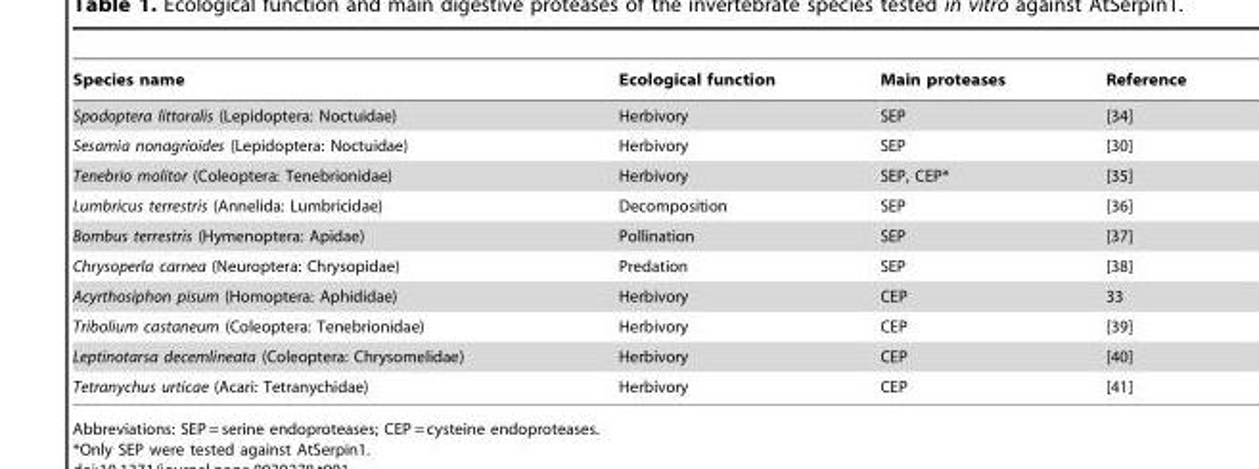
<table><thead><tr><td>Species name</td><td>Ecological function</td><td>Main proteases</td><td>Reference</td></tr></thead><tbody><tr><td>Spodoptera littoralis (Lepidoptera: Noctuidae)</td><td>Herbivory</td><td>SEP</td><td>[34]</td></tr><tr><td>Sesamia nonagrioides (Lepidoptera: Noctuidae)</td><td>Herbivory</td><td>SEP</td><td>[30]</td></tr><tr><td>Tenebrio molitor (Coleoptera: Tenebrionidae)</td><td>Herbivory</td><td>SEP, CEP*</td><td>[35]</td></tr><tr><td>Lumbricus terrestris (Annelida: Lumbricidae)</td><td>Decomposition</td><td>SEP</td><td>[36]</td></tr><tr><td>Bombus terrestris (Hymenoptera: Apidae)</td><td>Pollination</td><td>SEP</td><td>[37]</td></tr><tr><td>Chrysoperla carnea (Neuroptera: Chrysopidae)</td><td>Predation</td><td>SEP</td><td>[38]</td></tr><tr><td>Acyrthosiphon pisum (Homoptera: Aphididae)</td><td>Herbivory</td><td>CEP</td><td>33</td></tr><tr><td>Tribolium castaneum (Coleoptera: Tenebrionidae)</td><td>Herbivory</td><td>CEP</td><td>[39]</td></tr><tr><td>Leptinotarsa decemlineata (Coleoptera: Chrysomelidae)</td><td>Herbivory</td><td>CEP</td><td>[40]</td></tr><tr><td>Tetranychus urticae (Acari: Tetranychidae)</td><td>Herbivory</td><td>CEP</td><td>[41]</td></tr></tbody></table>